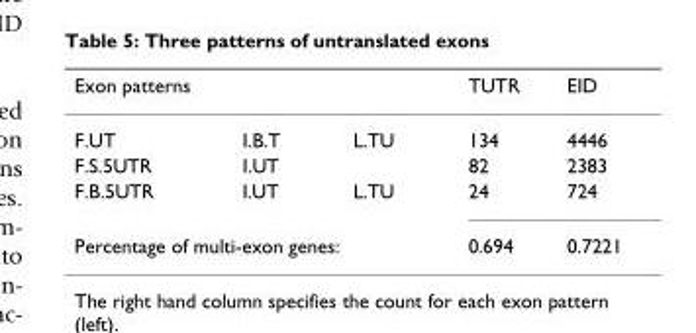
<table><thead><tr><td colspan="3">Exon patterns</td><td rowspan="2">TUTR 134</td><td rowspan="2">EID 4446</td></tr><tr><td>F.UT</td><td>I.B.T</td><td>L.TU</td></tr></thead><tbody><tr><td>F.S.5UTR</td><td>I.UT</td><td></td><td>82</td><td>2383</td></tr><tr><td>F.B.5UTR</td><td>I.UT</td><td>L.TU</td><td>24</td><td>724</td></tr><tr><td colspan="3">Percentage of multi-exon genes:</td><td>0.694</td><td>0.7221</td></tr></tbody></table>